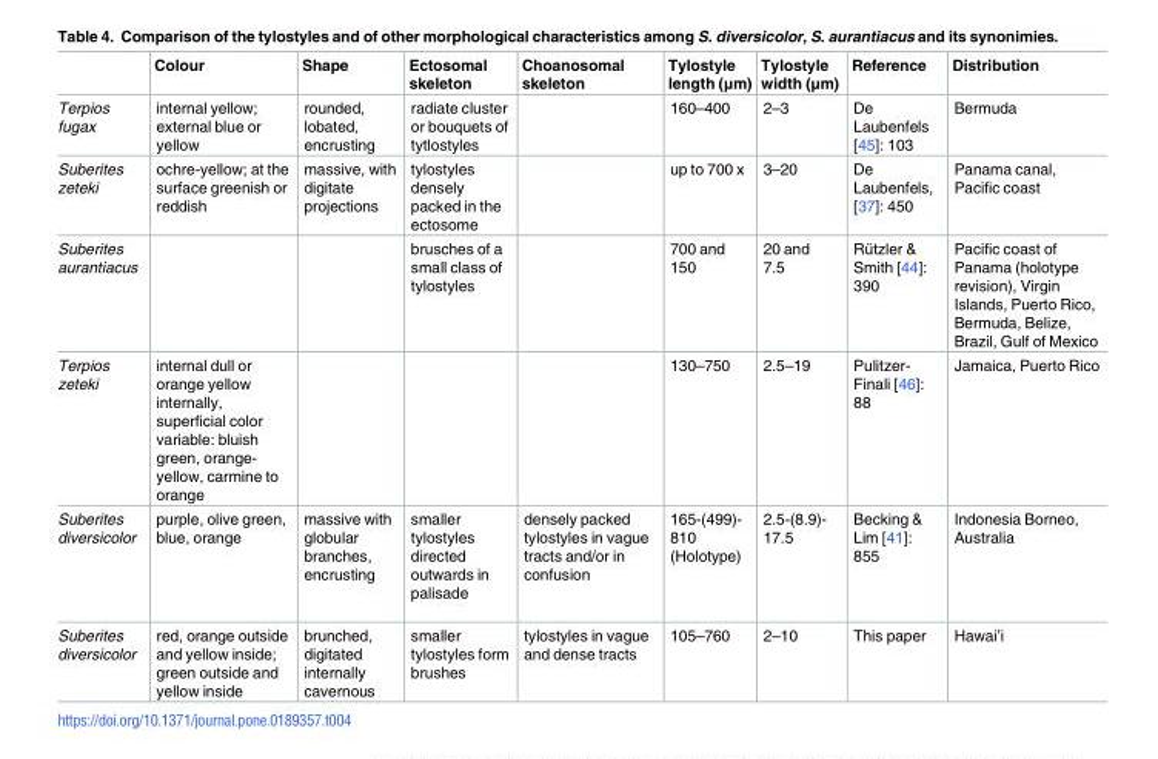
<table><thead><tr><td></td><td>Colour</td><td>Shape</td><td>Ectosomal skeleton</td><td>Choanosomal skeleton</td><td>Tylostyle length (μm)</td><td>Tylostyle width (μm)</td><td>Reference</td><td>Distribution</td></tr></thead><tbody><tr><td>Terpios fugax</td><td>internal yellow; external blue or yellow</td><td>rounded, lobated, encrusting</td><td>radiate cluster or bouquets of tytlostyles</td><td></td><td>160–400</td><td>2–3</td><td>De Laubenfels [45]: 103</td><td>Bermuda</td></tr><tr><td>Suberites zeteki</td><td>ochre-yellow; at the surface greenish or reddish</td><td>massive, with digitate projections</td><td>tylostyles densely packed in the ectosome</td><td></td><td>up to 700 x</td><td>3–20</td><td>De Laubenfels, [37]: 450</td><td>Panama canal, Pacific coast</td></tr><tr><td>Suberites aurantiacus</td><td></td><td></td><td>brusches of a small class of tylostyles</td><td></td><td>700 and 150</td><td>20 and 7.5</td><td>Ru¨tzler &amp; Smith [44]: 390</td><td>Pacific coast of Panama (holotype revision), Virgin Islands, Puerto Rico, Bermuda, Belize, Brazil, Gulf of Mexico</td></tr><tr><td>Terpios zeteki</td><td>internal dull or orange yellow internally, superficial color variable: bluish green, orange- yellow, carmine to orange</td><td></td><td></td><td></td><td>130–750</td><td>2.5–19</td><td>Pulitzer- Finali [46]: 88</td><td>Jamaica, Puerto Rico</td></tr><tr><td>Suberites diversicolor</td><td>purple, olive green, blue, orange</td><td>massive with globular branches, encrusting</td><td>smaller tylostyles directed outwards in palisade</td><td>densely packed tylostyles in vague tracts and/or in confusion</td><td>165-(499)- 810 (Holotype)</td><td>2.5-(8.9)- 17.5</td><td>Becking &amp; Lim [41]: 855</td><td>Indonesia Borneo, Australia</td></tr><tr><td>Suberites diversicolor</td><td>red, orange outside and yellow inside; green outside and yellow inside</td><td>brunched, digitated internally cavernous</td><td>smaller tylostyles form brushes</td><td>tylostyles in vague and dense tracts</td><td>105–760</td><td>2–10</td><td>This paper</td><td>Hawai’i</td></tr></tbody></table>